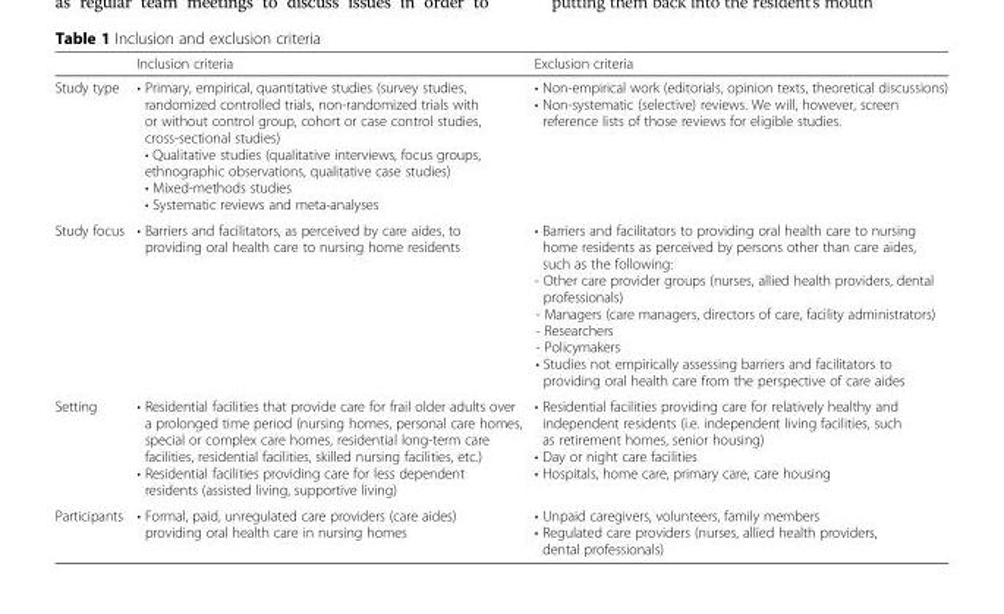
<table><thead><tr><td></td><td>Inclusion criteria</td><td>Exclusion criteria</td></tr></thead><tbody><tr><td>Study type</td><td>• Primary, empirical, quantitative studies (survey studies, randomized controlled trials, non-randomized trials with or without control group, cohort or case control studies, cross-sectional studies) • Qualitative studies (qualitative interviews, focus groups, ethnographic observations, qualitative case studies) • Mixed-methods studies • Systematic reviews and meta-analyses</td><td>• Non-empirical work (editorials, opinion texts, theoretical discussions) • Non-systematic (selective) reviews. We will, however, screen reference lists of those reviews for eligible studies.</td></tr><tr><td>Study focus</td><td>• Barriers and facilitators, as perceived by care aides, to providing oral health care to nursing home residents</td><td>• Barriers and facilitators to providing oral health care to nursing home residents as perceived by persons other than care aides, such as the following: - Other care provider groups (nurses, allied health providers, dental professionals) - Managers (care managers, directors of care, facility administrators) - Researchers - Policymakers • Studies not empirically assessing barriers and facilitators to providing oral health care from the perspective of care aides</td></tr><tr><td>Setting</td><td>• Residential facilities that provide care for frail older adults over a prolonged time period (nursing homes, personal care homes, special or complex care homes, residential long-term care facilities, residential facilities, skilled nursing facilities, etc.) • Residential facilities providing care for less dependent residents (assisted living, supportive living)</td><td>• Residential facilities providing care for relatively healthy and independent residents (i.e. independent living facilities, such as retirement homes, senior housing) • Day or night care facilities • Hospitals, home care, primary care, care housing</td></tr><tr><td>Participants</td><td>• Formal, paid, unregulated care providers (care aides) providing oral health care in nursing homes</td><td>• Unpaid caregivers, volunteers, family members • Regulated care providers (nurses, allied health providers, dental professionals)</td></tr></tbody></table>